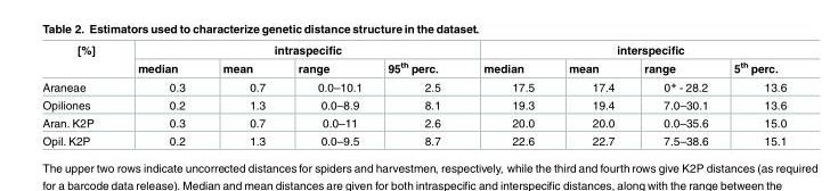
<table><thead><tr><td rowspan="2">[%]</td><td colspan="4">intraspecific</td><td colspan="4">interspecific</td></tr><tr><td>median</td><td>mean</td><td>range</td><td>95<sup>th</sup> perc.</td><td>median</td><td>mean</td><td>range</td><td>5<sup>th</sup> perc.</td></tr></thead><tbody><tr><td>Araneae</td><td>0.3</td><td>0.7</td><td>0.0–10.1</td><td>2.5</td><td>17.5</td><td>17.4</td><td>0* - 28.2</td><td>13.6</td></tr><tr><td>Opiliones</td><td>0.2</td><td>1.3</td><td>0.0–8.9</td><td>8.1</td><td>19.3</td><td>19.4</td><td>7.0–30.1</td><td>13.6</td></tr><tr><td>Aran. K2P</td><td>0.3</td><td>0.7</td><td>0.0–11</td><td>2.6</td><td>20.0</td><td>20.0</td><td>0.0–35.6</td><td>15.0</td></tr><tr><td>Opil. K2P</td><td>0.2</td><td>1.3</td><td>0.0–9.5</td><td>8.7</td><td>22.6</td><td>22.7</td><td>7.5–38.6</td><td>15.1</td></tr></tbody></table>